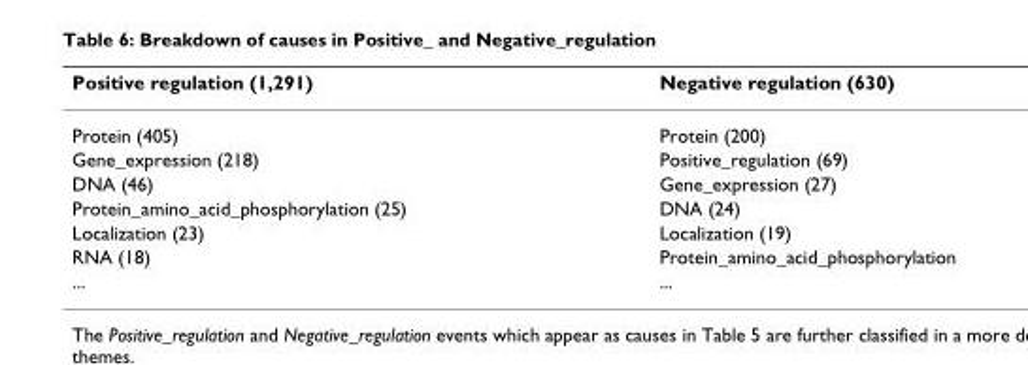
<table><thead><tr><td>Positive regulation (1,291)</td><td>Negative regulation (630)</td></tr></thead><tbody><tr><td>Protein (405)</td><td>Protein (200)</td></tr><tr><td>Gene_expression (218)</td><td>Positive_regulation (69)</td></tr><tr><td>DNA (46)</td><td>Gene_expression (27)</td></tr><tr><td>Protein_amino_acid_phosphorylation (25)</td><td>DNA (24)</td></tr><tr><td>Localization (23)</td><td>Localization (19)</td></tr><tr><td>RNA (18)</td><td>Protein_amino_acid_phosphorylation</td></tr><tr><td>...</td><td>...</td></tr></tbody></table>